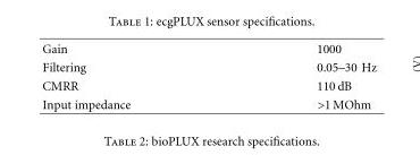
<table><tbody><tr><td>Gain</td><td>1000</td></tr><tr><td>Filtering</td><td>0.05–30 Hz</td></tr><tr><td>CMRR</td><td>110 dB</td></tr><tr><td>Input impedance</td><td>&gt;1 MOhm</td></tr></tbody></table>